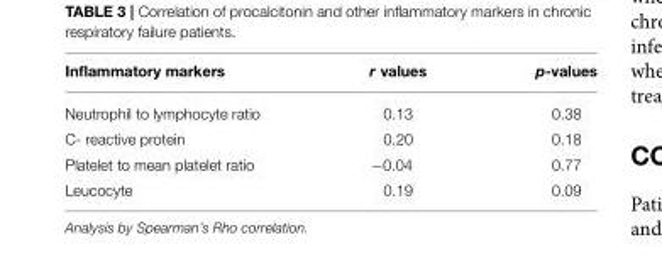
<table><thead><tr><td>Inflammatory markers</td><td>r values</td><td>p-values</td></tr></thead><tbody><tr><td>Neutrophil to lymphocyte ratio</td><td>0.13</td><td>0.38</td></tr><tr><td>C- reactive protein</td><td>0.20</td><td>0.18</td></tr><tr><td>Platelet to mean platelet ratio</td><td>−0.04</td><td>0.77</td></tr><tr><td>Leucocyte</td><td>0.19</td><td>0.09</td></tr></tbody></table>